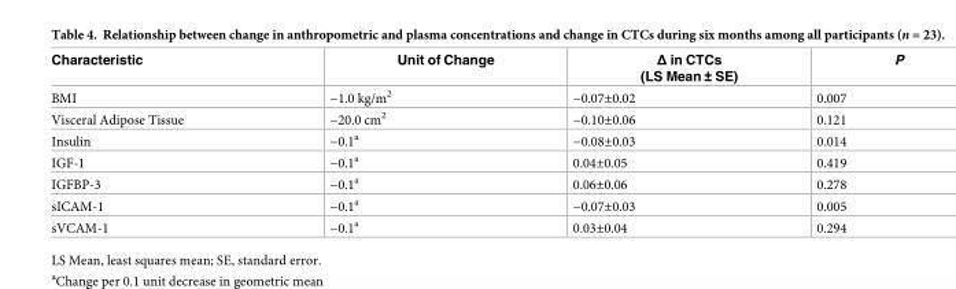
<table><thead><tr><td>Characteristic</td><td>Unit of Change</td><td>Δ in CTCs (LS Mean ± SE)</td><td>P</td></tr></thead><tbody><tr><td>BMI</td><td>−1.0 kg/m<sup>2</sup></td><td>−0.07±0.02</td><td>0.007</td></tr><tr><td>Visceral Adipose Tissue</td><td>−20.0 cm<sup>2</sup></td><td>−0.10±0.06</td><td>0.121</td></tr><tr><td>Insulin</td><td>−0.1<sup>a</sup></td><td>−0.08±0.03</td><td>0.014</td></tr><tr><td>IGF-1</td><td>−0.1<sup>a</sup></td><td>0.04±0.05</td><td>0.419</td></tr><tr><td>IGFBP-3</td><td>−0.1<sup>a</sup></td><td>0.06±0.06</td><td>0.278</td></tr><tr><td>sICAM-1</td><td>−0.1<sup>a</sup></td><td>−0.07±0.03</td><td>0.005</td></tr><tr><td>sVCAM-1</td><td>−0.1<sup>a</sup></td><td>0.03±0.04</td><td>0.294</td></tr></tbody></table>